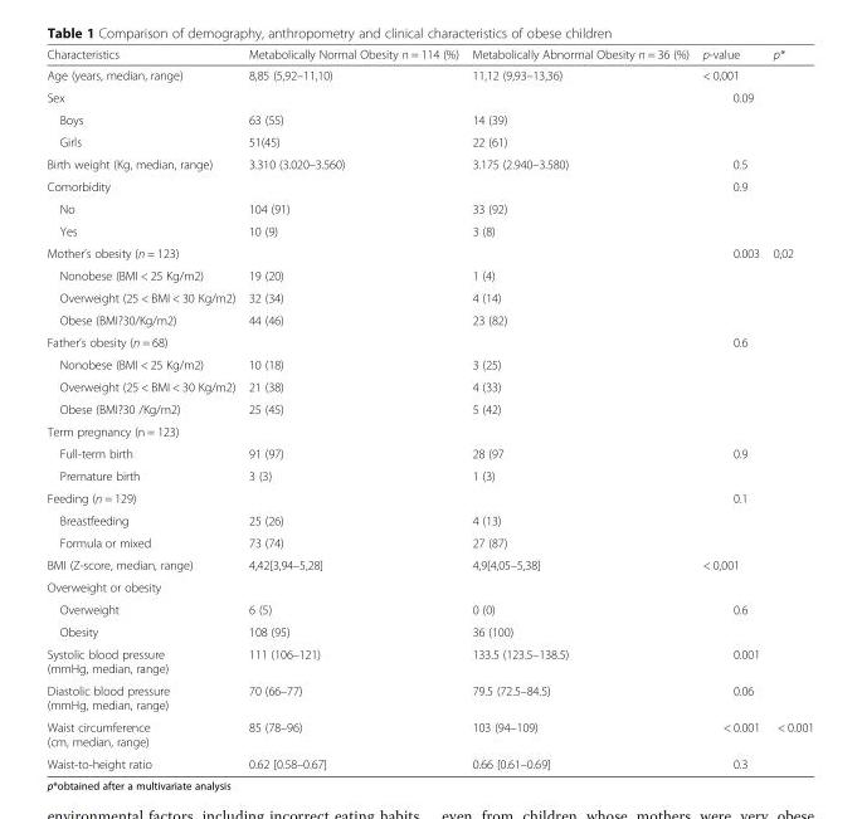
<table><thead><tr><td>Characteristics</td><td>Metabolically Normal Obesity n = 114 (%)</td><td>Metabolically Abnormal Obesity n = 36 (%)</td><td>p-value</td><td>p*</td></tr></thead><tbody><tr><td>Age (years, median, range)</td><td>8,85 (5,92–11,10)</td><td>11,12 (9,93–13,36)</td><td>&lt; 0,001</td><td></td></tr><tr><td>Sex</td><td></td><td></td><td>0.09</td><td rowspan="3"></td></tr><tr><td>Boys</td><td>63 (55)</td><td>14 (39)</td><td></td></tr><tr><td>Girls</td><td>51(45)</td><td>22 (61)</td><td></td></tr><tr><td>Birth weight (Kg, median, range)</td><td>3.310 (3.020–3.560)</td><td>3.175 (2.940–3.580)</td><td>0.5</td><td></td></tr><tr><td>Comorbidity</td><td></td><td></td><td>0.9</td><td rowspan="3"></td></tr><tr><td>No</td><td>104 (91)</td><td>33 (92)</td><td></td></tr><tr><td>Yes</td><td>10 (9)</td><td>3 (8)</td><td></td></tr><tr><td>Mother’s obesity (n = 123)</td><td></td><td></td><td>0.003</td><td>0,02</td></tr><tr><td>Nonobese (BMI &lt; 25 Kg/m2)</td><td>19 (20)</td><td>1 (4)</td><td></td><td rowspan="3"></td></tr><tr><td>Overweight (25 &lt; BMI &lt; 30 Kg/m2)</td><td>32 (34)</td><td>4 (14)</td><td></td></tr><tr><td>Obese (BMI?30/Kg/m2)</td><td>44 (46)</td><td>23 (82)</td><td></td></tr><tr><td>Father’s obesity (n = 68)</td><td></td><td></td><td>0.6</td><td rowspan="4"></td></tr><tr><td>Nonobese (BMI &lt; 25 Kg/m2)</td><td>10 (18)</td><td>3 (25)</td><td></td></tr><tr><td>Overweight (25 &lt; BMI &lt; 30 Kg/m2)</td><td>21 (38)</td><td>4 (33)</td><td></td></tr><tr><td>Obese (BMI?30 /Kg/m2)</td><td>25 (45)</td><td>5 (42)</td><td></td></tr><tr><td colspan="5">Term pregnancy (n = 123)</td></tr><tr><td>Full-term birth</td><td>91 (97)</td><td>28 (97</td><td>0.9</td><td rowspan="2"></td></tr><tr><td>Premature birth</td><td>3 (3)</td><td>1 (3)</td><td></td></tr><tr><td>Feeding (n = 129)</td><td></td><td></td><td>0.1</td><td rowspan="3"></td></tr><tr><td>Breastfeeding</td><td>25 (26)</td><td>4 (13)</td><td></td></tr><tr><td>Formula or mixed</td><td>73 (74)</td><td>27 (87)</td><td></td></tr><tr><td>BMI (Z-score, median, range)</td><td>4,42[3,94–5,28]</td><td>4,9[4,05–5,38]</td><td>&lt; 0,001</td><td></td></tr><tr><td colspan="5">Overweight or obesity</td></tr><tr><td>Overweight</td><td>6 (5)</td><td>0 (0)</td><td>0.6</td><td rowspan="2"></td></tr><tr><td>Obesity</td><td>108 (95)</td><td>36 (100)</td><td></td></tr><tr><td>Systolic blood pressure (mmHg, median, range)</td><td>111 (106–121)</td><td>133.5 (123.5–138.5)</td><td>0.001</td><td rowspan="2"></td></tr><tr><td>Diastolic blood pressure (mmHg, median, range)</td><td>70 (66–77)</td><td>79.5 (72.5–84.5)</td><td>0.06</td></tr><tr><td>Waist circumference (cm, median, range)</td><td>85 (78–96)</td><td>103 (94–109)</td><td>&lt; 0.001</td><td>&lt; 0.001</td></tr><tr><td>Waist-to-height ratio</td><td>0.62 [0.58–0.67]</td><td>0.66 [0.61–0.69]</td><td>0.3</td><td></td></tr></tbody></table>